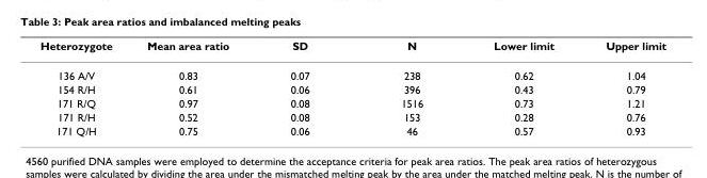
<table><thead><tr><td>Heterozygote</td><td>Mean area ratio</td><td>SD</td><td>N</td><td>Lower limit</td><td>Upper limit</td></tr></thead><tbody><tr><td>136 A/V</td><td>0.83</td><td>0.07</td><td>238</td><td>0.62</td><td>1.04</td></tr><tr><td>154 R/H</td><td>0.61</td><td>0.06</td><td>396</td><td>0.43</td><td>0.79</td></tr><tr><td>171 R/Q</td><td>0.97</td><td>0.08</td><td>1516</td><td>0.73</td><td>1.21</td></tr><tr><td>171 R/H</td><td>0.52</td><td>0.08</td><td>153</td><td>0.28</td><td>0.76</td></tr><tr><td>171 Q/H</td><td>0.75</td><td>0.06</td><td>46</td><td>0.57</td><td>0.93</td></tr></tbody></table>